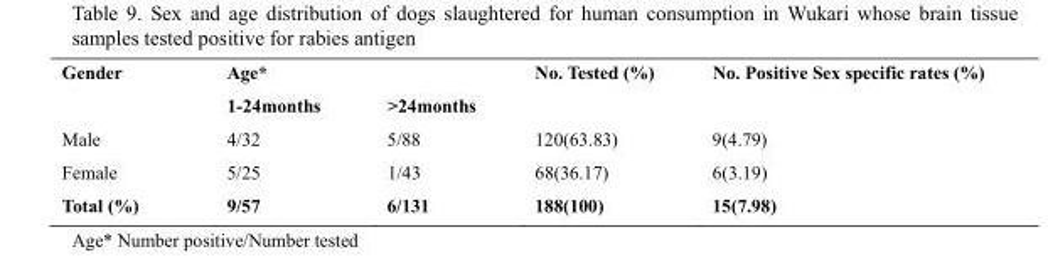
<table><tbody><tr><td rowspan="2">Gender</td><td colspan="2">Age*</td><td>No. Tested (%)</td><td>No. Positive Sex specific rates (%)</td></tr><tr><td>1-24months</td><td>&gt;24months</td><td></td><td></td></tr><tr><td>Male</td><td>4/32</td><td>5/88</td><td>120(63.83)</td><td>9(4.79)</td></tr><tr><td>Female</td><td>5/25</td><td>1/43</td><td>68(36.17)</td><td>6(3.19)</td></tr><tr><td>Total (%)</td><td>9/57</td><td>6/131</td><td>188(100)</td><td>15(7.98)</td></tr></tbody></table>